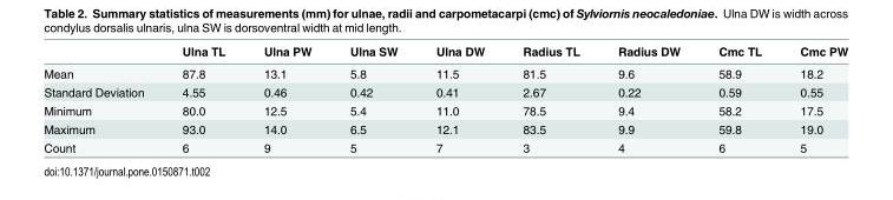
<table><thead><tr><td></td><td>Ulna TL</td><td>Ulna PW</td><td>Ulna SW</td><td>Ulna DW</td><td>Radius TL</td><td>Radius DW</td><td>Cmc TL</td><td>Cmc PW</td></tr></thead><tbody><tr><td>Mean</td><td>87.8</td><td>13.1</td><td>5.8</td><td>11.5</td><td>81.5</td><td>9.6</td><td>58.9</td><td>18.2</td></tr><tr><td>Standard Deviation</td><td>4.55</td><td>0.46</td><td>0.42</td><td>0.41</td><td>2.67</td><td>0.22</td><td>0.59</td><td>0.55</td></tr><tr><td>Minimum</td><td>80.0</td><td>12.5</td><td>5.4</td><td>11.0</td><td>78.5</td><td>9.4</td><td>58.2</td><td>17.5</td></tr><tr><td>Maximum</td><td>93.0</td><td>14.0</td><td>6.5</td><td>12.1</td><td>83.5</td><td>9.9</td><td>59.8</td><td>19.0</td></tr><tr><td>Count</td><td>6</td><td>9</td><td>5</td><td>7</td><td>3</td><td>4</td><td>6</td><td>5</td></tr></tbody></table>